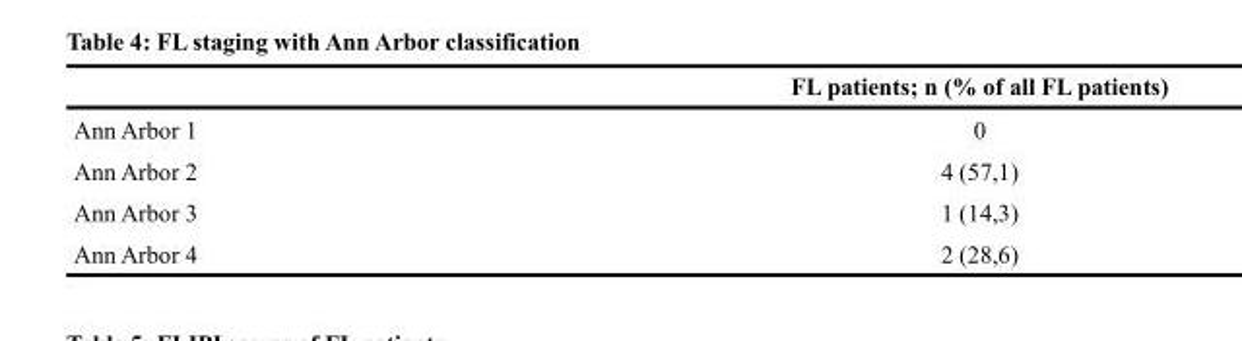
<table><thead><tr><td></td><td>FL patients; n (% of all FL patients)</td></tr></thead><tbody><tr><td>Ann Arbor 1</td><td>0</td></tr><tr><td>Ann Arbor 2</td><td>4 (57,1)</td></tr><tr><td>Ann Arbor 3</td><td>1 (14,3)</td></tr><tr><td>Ann Arbor 4</td><td>2 (28,6)</td></tr></tbody></table>